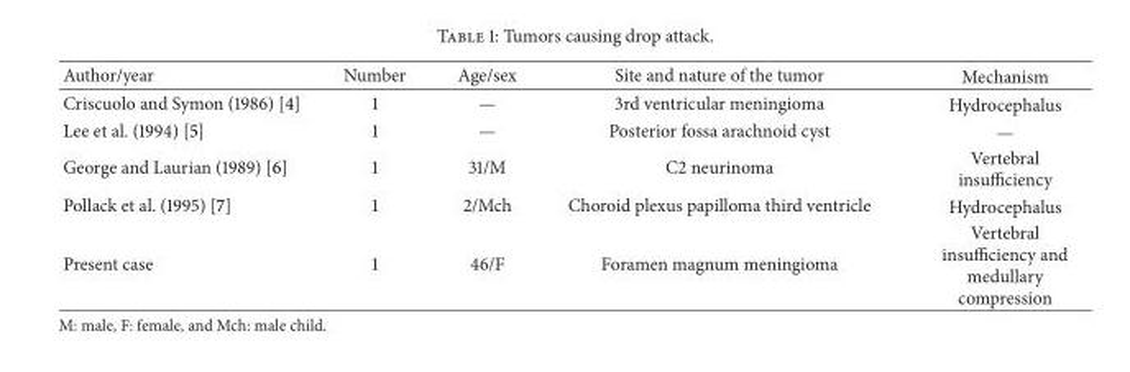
<table><thead><tr><td>Author/year</td><td>Number</td><td>Age/sex</td><td>Site and nature of the tumor</td><td>Mechanism</td></tr></thead><tbody><tr><td>Criscuolo and Symon (1986) [4]</td><td>1</td><td>—</td><td>3rd ventricular meningioma</td><td>Hydrocephalus</td></tr><tr><td>Lee et al. (1994) [5]</td><td>1</td><td>—</td><td>Posterior fossa arachnoid cyst</td><td>—</td></tr><tr><td>George and Laurian (1989) [6]</td><td>1</td><td>31/M</td><td>C2 neurinoma</td><td>Vertebral insufficiency</td></tr><tr><td>Pollack et al. (1995) [7]</td><td>1</td><td>2/Mch</td><td>Choroid plexus papilloma third ventricle</td><td>Hydrocephalus</td></tr><tr><td>Present case</td><td>1</td><td>46/F</td><td>Foramen magnum meningioma</td><td>Vertebral insufficiency and medullary compression</td></tr></tbody></table>